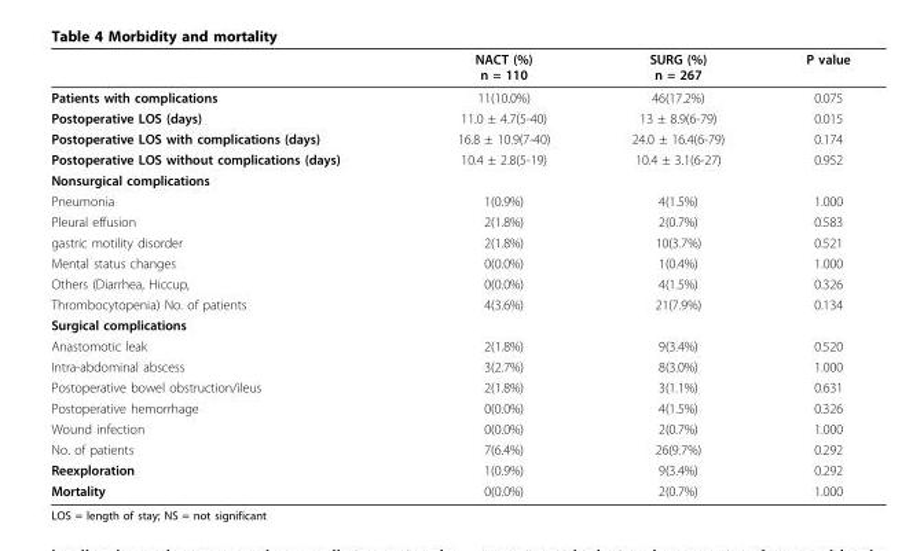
<table><thead><tr><td></td><td>NACT (%) n = 110</td><td>SURG (%) n = 267</td><td>P value</td></tr></thead><tbody><tr><td>Patients with complications</td><td>11(10.0%)</td><td>46(17.2%)</td><td>0.075</td></tr><tr><td>Postoperative LOS (days)</td><td>11.0 ± 4.7(5-40)</td><td>13 ± 8.9(6-79)</td><td>0.015</td></tr><tr><td>Postoperative LOS with complications (days)</td><td>16.8 ± 10.9(7-40)</td><td>24.0 ± 16.4(6-79)</td><td>0.174</td></tr><tr><td>Postoperative LOS without complications (days)</td><td>10.4 ± 2.8(5-19)</td><td>10.4 ± 3.1(6-27)</td><td>0.952</td></tr><tr><td colspan="4">Nonsurgical complications</td></tr><tr><td>Pneumonia</td><td>1(0.9%)</td><td>4(1.5%)</td><td>1.000</td></tr><tr><td>Pleural effusion</td><td>2(1.8%)</td><td>2(0.7%)</td><td>0.583</td></tr><tr><td>gastric motility disorder</td><td>2(1.8%)</td><td>10(3.7%)</td><td>0.521</td></tr><tr><td>Mental status changes</td><td>0(0.0%)</td><td>1(0.4%)</td><td>1.000</td></tr><tr><td>Others (Diarrhea, Hiccup,</td><td>0(0.0%)</td><td>4(1.5%)</td><td>0.326</td></tr><tr><td>Thrombocytopenia) No. of patients</td><td>4(3.6%)</td><td>21(7.9%)</td><td>0.134</td></tr><tr><td colspan="4">Surgical complications</td></tr><tr><td>Anastomotic leak</td><td>2(1.8%)</td><td>9(3.4%)</td><td>0.520</td></tr><tr><td>Intra-abdominal abscess</td><td>3(2.7%)</td><td>8(3.0%)</td><td>1.000</td></tr><tr><td>Postoperative bowel obstruction/ileus</td><td>2(1.8%)</td><td>3(1.1%)</td><td>0.631</td></tr><tr><td>Postoperative hemorrhage</td><td>0(0.0%)</td><td>4(1.5%)</td><td>0.326</td></tr><tr><td>Wound infection</td><td>0(0.0%)</td><td>2(0.7%)</td><td>1.000</td></tr><tr><td>No. of patients</td><td>7(6.4%)</td><td>26(9.7%)</td><td>0.292</td></tr><tr><td>Reexploration</td><td>1(0.9%)</td><td>9(3.4%)</td><td>0.292</td></tr><tr><td>Mortality</td><td>0(0.0%)</td><td>2(0.7%)</td><td>1.000</td></tr></tbody></table>